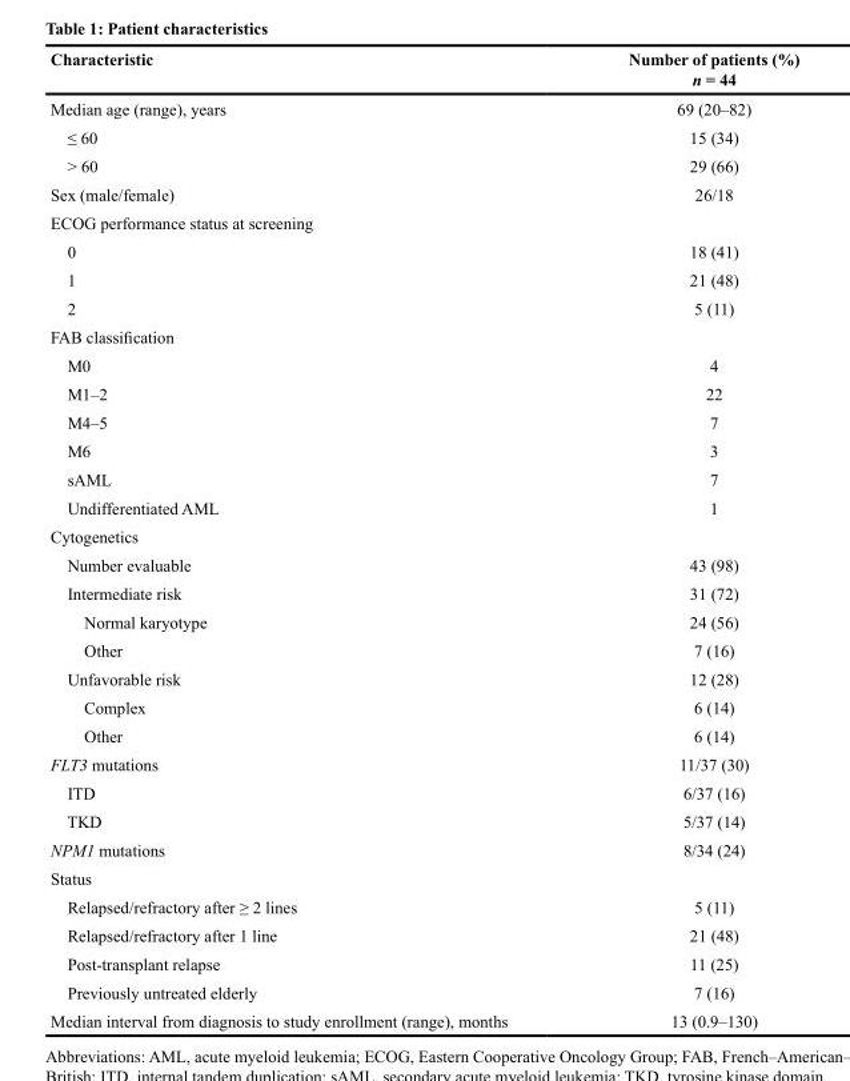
<table><thead><tr><td>Characteristic</td><td>Number of patients (%) n = 44</td></tr></thead><tbody><tr><td>Median age (range), years</td><td>69 (20–82)</td></tr><tr><td>≤ 60</td><td>15 (34)</td></tr><tr><td>&gt; 60</td><td>29 (66)</td></tr><tr><td>Sex (male/female)</td><td>26/18</td></tr><tr><td colspan="2">ECOG performance status at screening</td></tr><tr><td>0</td><td>18 (41)</td></tr><tr><td>1</td><td>21 (48)</td></tr><tr><td>2</td><td>5 (11)</td></tr><tr><td colspan="2">FAB classification</td></tr><tr><td>M0</td><td>4</td></tr><tr><td>M1–2</td><td>22</td></tr><tr><td>M4–5</td><td>7</td></tr><tr><td>M6</td><td>3</td></tr><tr><td>sAML</td><td>7</td></tr><tr><td>Undifferentiated AML</td><td>1</td></tr><tr><td colspan="2">Cytogenetics</td></tr><tr><td>Number evaluable</td><td>43 (98)</td></tr><tr><td>Intermediate risk</td><td>31 (72)</td></tr><tr><td>Normal karyotype</td><td>24 (56)</td></tr><tr><td>Other</td><td>7 (16)</td></tr><tr><td>Unfavorable risk</td><td>12 (28)</td></tr><tr><td>Complex</td><td>6 (14)</td></tr><tr><td>Other</td><td>6 (14)</td></tr><tr><td>FLT3 mutations</td><td>11/37 (30)</td></tr><tr><td>ITD</td><td>6/37 (16)</td></tr><tr><td>TKD</td><td>5/37 (14)</td></tr><tr><td>NPM1 mutations</td><td>8/34 (24)</td></tr><tr><td colspan="2">Status</td></tr><tr><td>Relapsed/refractory after ≥ 2 lines</td><td>5 (11)</td></tr><tr><td>Relapsed/refractory after 1 line</td><td>21 (48)</td></tr><tr><td>Post-transplant relapse</td><td>11 (25)</td></tr><tr><td>Previously untreated elderly</td><td>7 (16)</td></tr><tr><td>Median interval from diagnosis to study enrollment (range), months</td><td>13 (0.9–130)</td></tr></tbody></table>